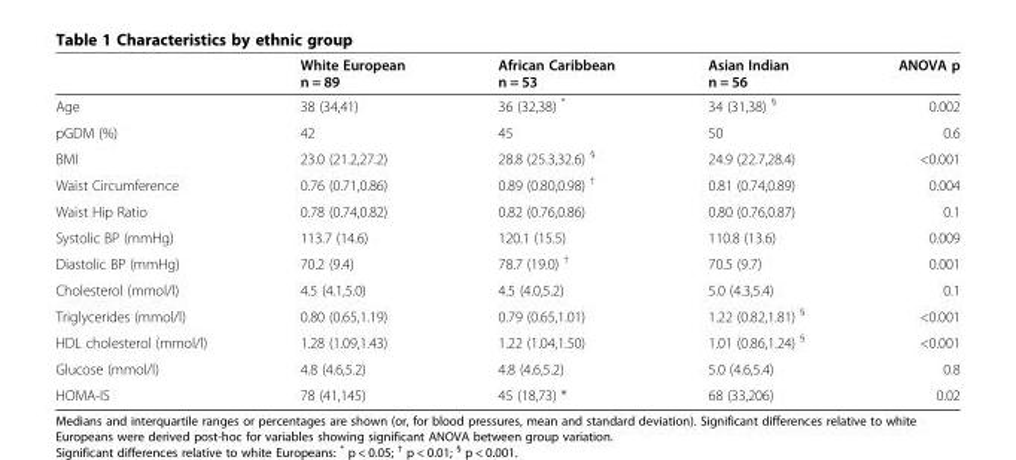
<table><thead><tr><td></td><td>White European n = 89</td><td>African Caribbean n = 53</td><td>Asian Indian n = 56</td><td>ANOVA p</td></tr></thead><tbody><tr><td>Age</td><td>38 (34,41)</td><td>36 (32,38) *</td><td>34 (31,38) <sup>§</sup></td><td>0.002</td></tr><tr><td>pGDM (%)</td><td>42</td><td>45</td><td>50</td><td>0.6</td></tr><tr><td>BMI</td><td>23.0 (21.2,27.2)</td><td>28.8 (25.3,32.6) <sup>§</sup></td><td>24.9 (22.7,28.4)</td><td>&lt;0.001</td></tr><tr><td>Waist Circumference</td><td>0.76 (0.71,0.86)</td><td>0.89 (0.80,0.98) <sup>†</sup></td><td>0.81 (0.74,0.89)</td><td>0.004</td></tr><tr><td>Waist Hip Ratio</td><td>0.78 (0.74,0.82)</td><td>0.82 (0.76,0.86)</td><td>0.80 (0.76,0.87)</td><td>0.1</td></tr><tr><td>Systolic BP (mmHg)</td><td>113.7 (14.6)</td><td>120.1 (15.5)</td><td>110.8 (13.6)</td><td>0.009</td></tr><tr><td>Diastolic BP (mmHg)</td><td>70.2 (9.4)</td><td>78.7 (19.0) <sup>†</sup></td><td>70.5 (9.7)</td><td>0.001</td></tr><tr><td>Cholesterol (mmol/l)</td><td>4.5 (4.1,5.0)</td><td>4.5 (4.0,5.2)</td><td>5.0 (4.3,5.4)</td><td>0.1</td></tr><tr><td>Triglycerides (mmol/l)</td><td>0.80 (0.65,1.19)</td><td>0.79 (0.65,1.01)</td><td>1.22 (0.82,1.81) <sup>§</sup></td><td>&lt;0.001</td></tr><tr><td>HDL cholesterol (mmol/l)</td><td>1.28 (1.09,1.43)</td><td>1.22 (1.04,1.50)</td><td>1.01 (0.86,1.24) <sup>§</sup></td><td>&lt;0.001</td></tr><tr><td>Glucose (mmol/l)</td><td>4.8 (4.6,5.2)</td><td>4.8 (4.6,5.2)</td><td>5.0 (4.6,5.4)</td><td>0.8</td></tr><tr><td>HOMA-IS</td><td>78 (41,145)</td><td>45 (18,73) *</td><td>68 (33,206)</td><td>0.02</td></tr></tbody></table>